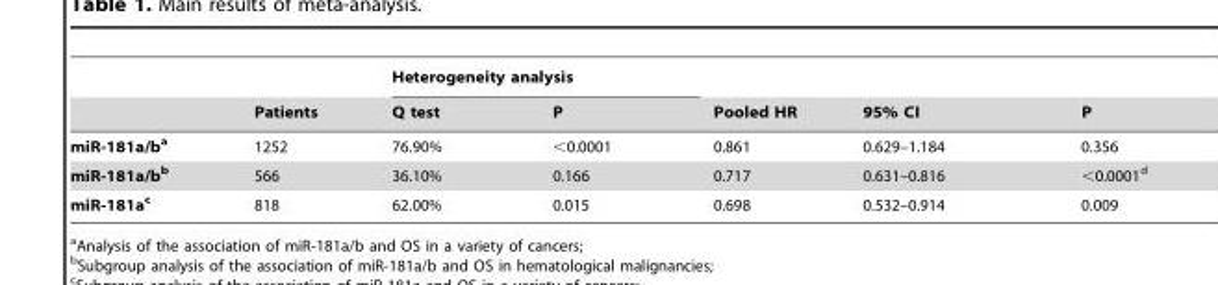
<table><thead><tr><td rowspan="2"></td><td rowspan="2">Patients</td><td colspan="2">Heterogeneity analysis</td><td rowspan="2">Pooled HR</td><td rowspan="2">95% CI</td><td rowspan="2">P</td></tr><tr><td>Q test</td><td>P</td></tr></thead><tbody><tr><td>miR-181a/ba</td><td>1252</td><td>76.90%</td><td>&lt;0.0001</td><td>0.861</td><td>0.629–1.184</td><td>0.356</td></tr><tr><td>miR-181a/bb</td><td>566</td><td>36.10%</td><td>0.166</td><td>0.717</td><td>0.631–0.816</td><td>&lt;0.0001<sup>d</sup></td></tr><tr><td>miR-181ac</td><td>818</td><td>62.00%</td><td>0.015</td><td>0.698</td><td>0.532–0.914</td><td>0.009</td></tr></tbody></table>